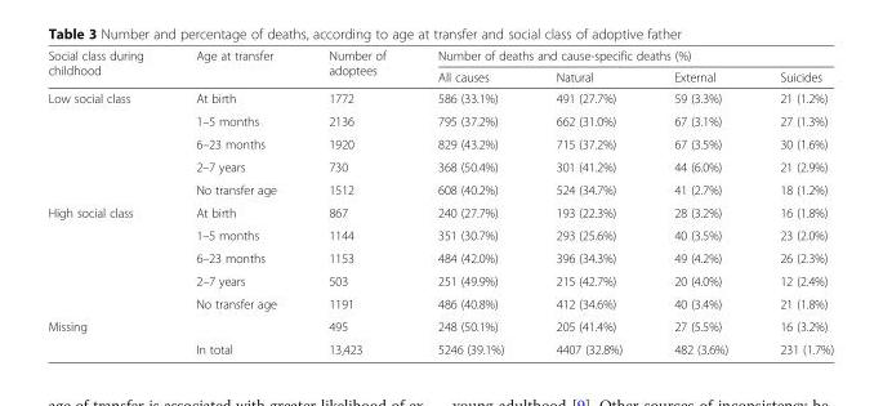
<table><thead><tr><td rowspan="2">Social class during childhood</td><td rowspan="2">Age at transfer</td><td rowspan="2">Number of adoptees</td><td colspan="4">Number of deaths and cause-specific deaths (%)</td></tr><tr><td>All causes</td><td>Natural</td><td>External</td><td>Suicides</td></tr></thead><tbody><tr><td rowspan="5">Low social class</td><td>At birth</td><td>1772</td><td>586 (33.1%)</td><td>491 (27.7%)</td><td>59 (3.3%)</td><td>21 (1.2%)</td></tr><tr><td>1–5 months</td><td>2136</td><td>795 (37.2%)</td><td>662 (31.0%)</td><td>67 (3.1%)</td><td>27 (1.3%)</td></tr><tr><td>6–23 months</td><td>1920</td><td>829 (43.2%)</td><td>715 (37.2%)</td><td>67 (3.5%)</td><td>30 (1.6%)</td></tr><tr><td>2–7 years</td><td>730</td><td>368 (50.4%)</td><td>301 (41.2%)</td><td>44 (6.0%)</td><td>21 (2.9%)</td></tr><tr><td>No transfer age</td><td>1512</td><td>608 (40.2%)</td><td>524 (34.7%)</td><td>41 (2.7%)</td><td>18 (1.2%)</td></tr><tr><td rowspan="5">High social class</td><td>At birth</td><td>867</td><td>240 (27.7%)</td><td>193 (22.3%)</td><td>28 (3.2%)</td><td>16 (1.8%)</td></tr><tr><td>1–5 months</td><td>1144</td><td>351 (30.7%)</td><td>293 (25.6%)</td><td>40 (3.5%)</td><td>23 (2.0%)</td></tr><tr><td>6–23 months</td><td>1153</td><td>484 (42.0%)</td><td>396 (34.3%)</td><td>49 (4.2%)</td><td>26 (2.3%)</td></tr><tr><td>2–7 years</td><td>503</td><td>251 (49.9%)</td><td>215 (42.7%)</td><td>20 (4.0%)</td><td>12 (2.4%)</td></tr><tr><td>No transfer age</td><td>1191</td><td>486 (40.8%)</td><td>412 (34.6%)</td><td>40 (3.4%)</td><td>21 (1.8%)</td></tr><tr><td rowspan="2">Missing</td><td></td><td>495</td><td>248 (50.1%)</td><td>205 (41.4%)</td><td>27 (5.5%)</td><td>16 (3.2%)</td></tr><tr><td>In total</td><td>13,423</td><td>5246 (39.1%)</td><td>4407 (32.8%)</td><td>482 (3.6%)</td><td>231 (1.7%)</td></tr></tbody></table>